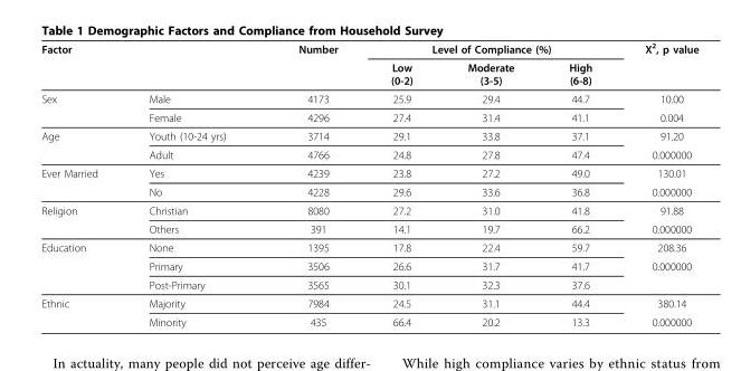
<table><thead><tr><td rowspan="2">Factor</td><td rowspan="2"></td><td rowspan="2">Number</td><td colspan="3">Level of Compliance (%)</td><td rowspan="2">X<sup>2</sup>, p value</td></tr><tr><td>Low (0-2)</td><td>Moderate (3-5)</td><td>High (6-8)</td></tr></thead><tbody><tr><td rowspan="2">Sex</td><td>Male</td><td>4173</td><td>25.9</td><td>29.4</td><td>44.7</td><td>10.00</td></tr><tr><td>Female</td><td>4296</td><td>27.4</td><td>31.4</td><td>41.1</td><td>0.004</td></tr><tr><td rowspan="2">Age</td><td>Youth (10-24 yrs)</td><td>3714</td><td>29.1</td><td>33.8</td><td>37.1</td><td>91.20</td></tr><tr><td>Adult</td><td>4766</td><td>24.8</td><td>27.8</td><td>47.4</td><td>0.000000</td></tr><tr><td rowspan="2">Ever Married</td><td>Yes</td><td>4239</td><td>23.8</td><td>27.2</td><td>49.0</td><td>130.01</td></tr><tr><td>No</td><td>4228</td><td>29.6</td><td>33.6</td><td>36.8</td><td>0.000000</td></tr><tr><td rowspan="2">Religion</td><td>Christian</td><td>8080</td><td>27.2</td><td>31.0</td><td>41.8</td><td>91.88</td></tr><tr><td>Others</td><td>391</td><td>14.1</td><td>19.7</td><td>66.2</td><td>0.000000</td></tr><tr><td rowspan="3">Education</td><td>None</td><td>1395</td><td>17.8</td><td>22.4</td><td>59.7</td><td>208.36</td></tr><tr><td>Primary</td><td>3506</td><td>26.6</td><td>31.7</td><td>41.7</td><td>0.000000</td></tr><tr><td>Post-Primary</td><td>3565</td><td>30.1</td><td>32.3</td><td>37.6</td><td></td></tr><tr><td rowspan="2">Ethnic</td><td>Majority</td><td>7984</td><td>24.5</td><td>31.1</td><td>44.4</td><td>380.14</td></tr><tr><td>Minority</td><td>435</td><td>66.4</td><td>20.2</td><td>13.3</td><td>0.000000</td></tr></tbody></table>